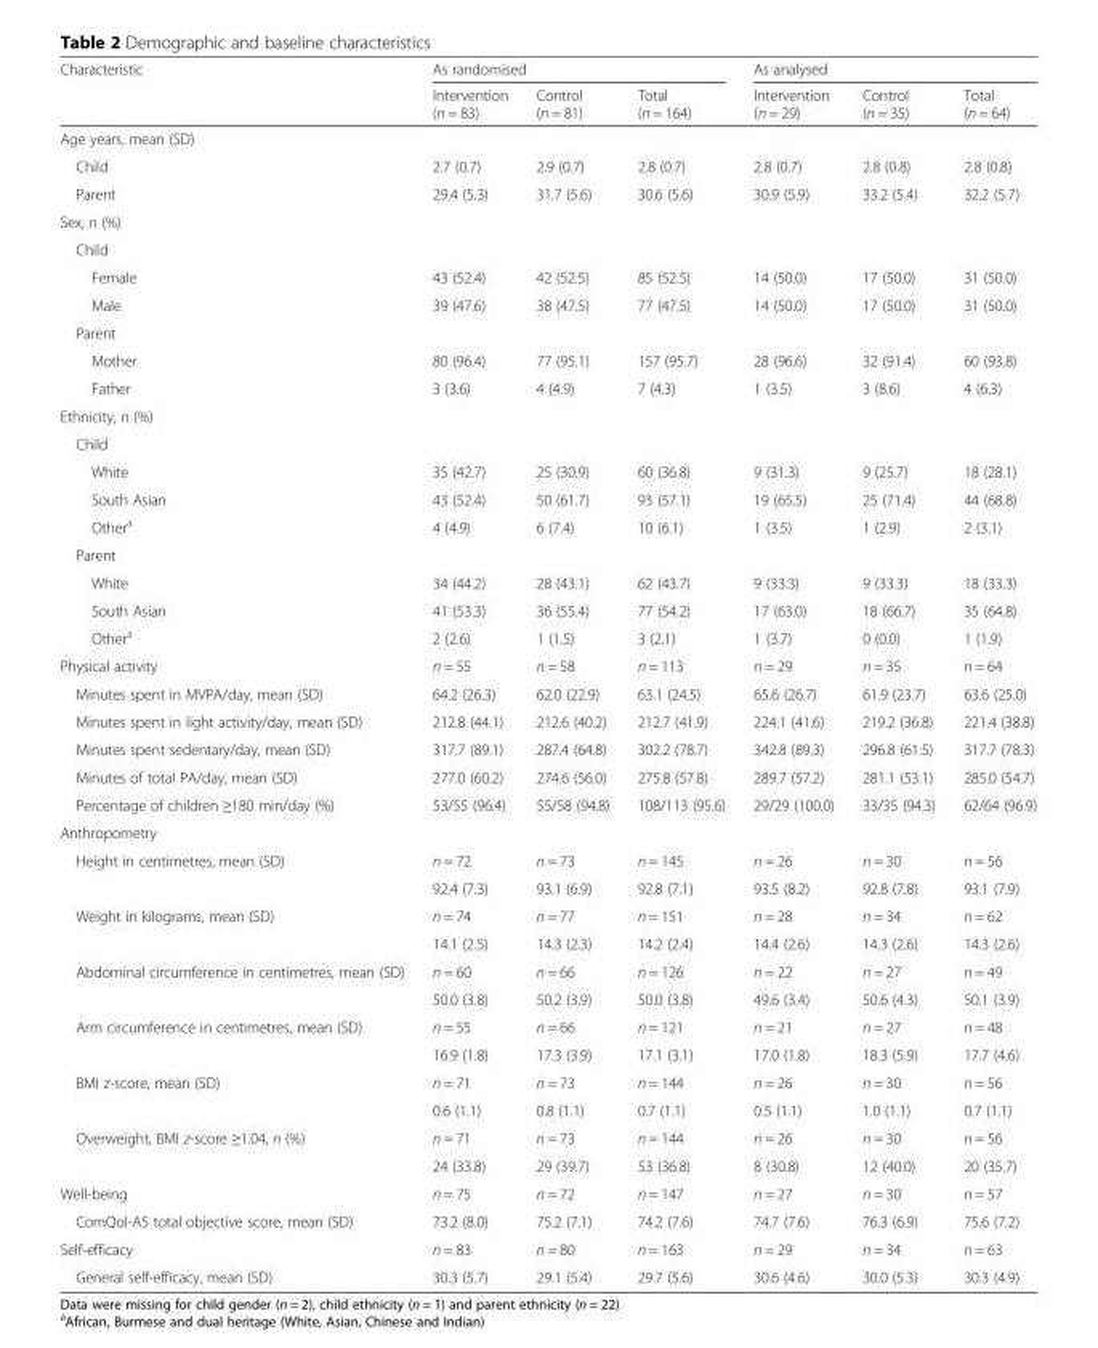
<table><thead><tr><td rowspan="2">Characteristic</td><td colspan="3">As randomised</td><td colspan="3">As analysed</td></tr><tr><td>Intervention (n = 83)</td><td>Control (n = 81)</td><td>Total (n = 164)</td><td>Intervention (n = 29)</td><td>Control (n = 35)</td><td>Total (n = 64)</td></tr></thead><tbody><tr><td colspan="7">Age years, mean (SD)</td></tr><tr><td>Child</td><td>2.7 (0.7)</td><td>2.9 (0.7)</td><td>2.8 (0.7)</td><td>2.8 (0.7)</td><td>2.8 (0.8)</td><td>2.8 (0.8)</td></tr><tr><td>Parent</td><td>29.4 (5.3)</td><td>31.7 (5.6)</td><td>30.6 (5.6)</td><td>30.9 (5.9)</td><td>33.2 (5.4)</td><td>32.2 (5.7)</td></tr><tr><td colspan="7">Sex, n (%)</td></tr><tr><td colspan="7">Child</td></tr><tr><td>Female</td><td>43 (52.4)</td><td>42 (52.5)</td><td>85 (52.5)</td><td>14 (50.0)</td><td>17 (50.0)</td><td>31 (50.0)</td></tr><tr><td>Male</td><td>39 (47.6)</td><td>38 (47.5)</td><td>77 (47.5)</td><td>14 (50.0)</td><td>17 (50.0)</td><td>31 (50.0)</td></tr><tr><td colspan="7">Parent</td></tr><tr><td>Mother</td><td>80 (96.4)</td><td>77 (95.1)</td><td>157 (95.7)</td><td>28 (96.6)</td><td>32 (91.4)</td><td>60 (93.8)</td></tr><tr><td>Father</td><td>3 (3.6)</td><td>4 (4.9)</td><td>7 (4.3)</td><td>1 (3.5)</td><td>3 (8.6)</td><td>4 (6.3)</td></tr><tr><td colspan="7">Ethnicity, n (%)</td></tr><tr><td colspan="7">Child</td></tr><tr><td>White</td><td>35 (42.7)</td><td>25 (30.9)</td><td>60 (36.8)</td><td>9 (31.3)</td><td>9 (25.7)</td><td>18 (28.1)</td></tr><tr><td>South Asian</td><td>43 (52.4)</td><td>50 (61.7)</td><td>93 (57.1)</td><td>19 (65.5)</td><td>25 (71.4)</td><td>44 (68.8)</td></tr><tr><td>Other<sup>a</sup></td><td>4 (4.9)</td><td>6 (7.4)</td><td>10 (6.1)</td><td>1 (3.5)</td><td>1 (2.9)</td><td>2 (3.1)</td></tr><tr><td colspan="7">Parent</td></tr><tr><td>White</td><td>34 (44.2)</td><td>28 (43.1)</td><td>62 (43.7)</td><td>9 (33.3)</td><td>9 (33.3)</td><td>18 (33.3)</td></tr><tr><td>South Asian</td><td>41 (53.3)</td><td>36 (55.4)</td><td>77 (54.2)</td><td>17 (63.0)</td><td>18 (66.7)</td><td>35 (64.8)</td></tr><tr><td>Other<sup>a</sup></td><td>2 (2.6)</td><td>1 (1.5)</td><td>3 (2.1)</td><td>1 (3.7)</td><td>0 (0.0)</td><td>1 (1.9)</td></tr><tr><td>Physical activity</td><td>n = 55</td><td>n = 58</td><td>n = 113</td><td>n = 29</td><td>n = 35</td><td>n = 64</td></tr><tr><td>Minutes spent in MVPA/day, mean (SD)</td><td>64.2 (26.3)</td><td>62.0 (22.9)</td><td>63.1 (24.5)</td><td>65.6 (26.7)</td><td>61.9 (23.7)</td><td>63.6 (25.0)</td></tr><tr><td>Minutes spent in light activity/day, mean (SD)</td><td>212.8 (44.1)</td><td>212.6 (40.2)</td><td>212.7 (41.9)</td><td>224.1 (41.6)</td><td>219.2 (36.8)</td><td>221.4 (38.8)</td></tr><tr><td>Minutes spent sedentary/day, mean (SD)</td><td>317.7 (89.1)</td><td>287.4 (64.8)</td><td>302.2 (78.7)</td><td>342.8 (89.3)</td><td>296.8 (61.5)</td><td>317.7 (78.3)</td></tr><tr><td>Minutes of total PA/day, mean (SD)</td><td>277.0 (60.2)</td><td>274.6 (56.0)</td><td>275.8 (57.8)</td><td>289.7 (57.2)</td><td>281.1 (53.1)</td><td>285.0 (54.7)</td></tr><tr><td>Percentage of children ≥180 min/day (%)</td><td>53/55 (96.4)</td><td>55/58 (94.8)</td><td>108/113 (95.6)</td><td>29/29 (100.0)</td><td>33/35 (94.3)</td><td>62/64 (96.9)</td></tr><tr><td colspan="7">Anthropometry</td></tr><tr><td rowspan="2">Height in centimetres, mean (SD)</td><td>n = 72</td><td>n = 73</td><td>n = 145</td><td>n = 26</td><td>n = 30</td><td>n = 56</td></tr><tr><td>92.4 (7.3)</td><td>93.1 (6.9)</td><td>92.8 (7.1)</td><td>93.5 (8.2)</td><td>92.8 (7.8)</td><td>93.1 (7.9)</td></tr><tr><td rowspan="2">Weight in kilograms, mean (SD)</td><td>n = 74</td><td>n = 77</td><td>n = 151</td><td>n = 28</td><td>n = 34</td><td>n = 62</td></tr><tr><td>14.1 (2.5)</td><td>14.3 (2.3)</td><td>14.2 (2.4)</td><td>14.4 (2.6)</td><td>14.3 (2.6)</td><td>14.3 (2.6)</td></tr><tr><td rowspan="2">Abdominal circumference in centimetres, mean (SD)</td><td>n = 60</td><td>n = 66</td><td>n = 126</td><td>n = 22</td><td>n = 27</td><td>n = 49</td></tr><tr><td>50.0 (3.8)</td><td>50.2 (3.9)</td><td>50.0 (3.8)</td><td>49.6 (3.4)</td><td>50.6 (4.3)</td><td>50.1 (3.9)</td></tr><tr><td rowspan="2">Arm circumference in centimetres, mean (SD)</td><td>n = 55</td><td>n = 66</td><td>n = 121</td><td>n = 21</td><td>n = 27</td><td>n = 48</td></tr><tr><td>16.9 (1.8)</td><td>17.3 (3.9)</td><td>17.1 (3.1)</td><td>17.0 (1.8)</td><td>18.3 (5.9)</td><td>17.7 (4.6)</td></tr><tr><td rowspan="2">BMI z-score, mean (SD)</td><td>n = 71</td><td>n = 73</td><td>n = 144</td><td>n = 26</td><td>n = 30</td><td>n = 56</td></tr><tr><td>0.6 (1.1)</td><td>0.8 (1.1)</td><td>0.7 (1.1)</td><td>0.5 (1.1)</td><td>1.0 (1.1)</td><td>0.7 (1.1)</td></tr><tr><td rowspan="2">Overweight, BMI z-score ≥1.04, n (%)</td><td>n = 71</td><td>n = 73</td><td>n = 144</td><td>n = 26</td><td>n = 30</td><td>n = 56</td></tr><tr><td>24 (33.8)</td><td>29 (39.7)</td><td>53 (36.8)</td><td>8 (30.8)</td><td>12 (40.0)</td><td>20 (35.7)</td></tr><tr><td>Well-being</td><td>n = 75</td><td>n = 72</td><td>n = 147</td><td>n = 27</td><td>n = 30</td><td>n = 57</td></tr><tr><td>ComQol-A5 total objective score, mean (SD)</td><td>73.2 (8.0)</td><td>75.2 (7.1)</td><td>74.2 (7.6)</td><td>74.7 (7.6)</td><td>76.3 (6.9)</td><td>75.6 (7.2)</td></tr><tr><td>Self-efficacy</td><td>n = 83</td><td>n = 80</td><td>n = 163</td><td>n = 29</td><td>n = 34</td><td>n = 63</td></tr><tr><td>General self-efficacy, mean (SD)</td><td>30.3 (5.7)</td><td>29.1 (5.4)</td><td>29.7 (5.6)</td><td>30.6 (4.6)</td><td>30.0 (5.3)</td><td>30.3 (4.9)</td></tr></tbody></table>